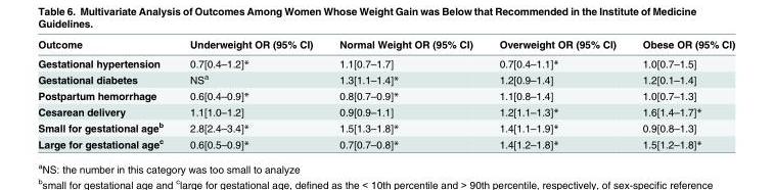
<table><thead><tr><td>Outcome</td><td>Underweight OR (95% CI)</td><td>Normal Weight OR (95% CI)</td><td>Overweight OR (95% CI)</td><td>Obese OR (95% CI)</td></tr></thead><tbody><tr><td>Gestational hypertension</td><td>0.7[0.4–1.2]*</td><td>1.1[0.7–1.7]</td><td>0.7[0.4–1.1]*</td><td>1.0[0.7–1.5]</td></tr><tr><td>Gestational diabetes</td><td>NS<sup>a</sup></td><td>1.3[1.1–1.4]*</td><td>1.2[0.9–1.4]</td><td>1.2[0.1–1.4]</td></tr><tr><td>Postpartum hemorrhage</td><td>0.6[0.4–0.9]*</td><td>0.8[0.7–0.9]*</td><td>1.1[0.8–1.4]</td><td>1.0[0.7–1.3]</td></tr><tr><td>Cesarean delivery</td><td>1.1[1.0–1.2]</td><td>0.9[0.9–1.1]</td><td>1.2[1.1–1.3]*</td><td>1.6[1.4–1.7]*</td></tr><tr><td>Small for gestational age<sup>b</sup></td><td>2.8[2.4–3.4]*</td><td>1.5[1.3–1.8]*</td><td>1.4[1.1–1.9]*</td><td>0.9[0.8–1.3]</td></tr><tr><td>Large for gestational age<sup>c</sup></td><td>0.6[0.5–0.9]*</td><td>0.7[0.7–0.8]*</td><td>1.4[1.2–1.8]*</td><td>1.5[1.2–1.8]*</td></tr></tbody></table>